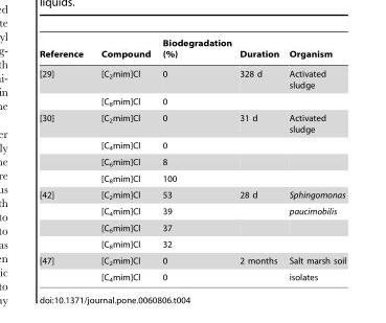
<table><thead><tr><td>Reference</td><td>Compound</td><td>Biodegradation (%)</td><td>Duration</td><td>Organism</td></tr></thead><tbody><tr><td rowspan="2">[29]</td><td>[C<sub>2</sub>mim]Cl</td><td>0</td><td>328 d</td><td>Activated sludge</td></tr><tr><td>[C<sub>8</sub>mim]Cl</td><td>0</td><td></td><td></td></tr><tr><td rowspan="4">[30]</td><td>[C<sub>2</sub>mim]Cl</td><td>0</td><td>31 d</td><td>Activated sludge</td></tr><tr><td>[C<sub>4</sub>mim]Cl</td><td>0</td><td></td><td></td></tr><tr><td>[C<sub>6</sub>mim]Cl</td><td>8</td><td></td><td></td></tr><tr><td>[C<sub>8</sub>mim]Cl</td><td>100</td><td></td><td></td></tr><tr><td rowspan="4">[42]</td><td>[C<sub>2</sub>mim]Cl</td><td>53</td><td>28 d</td><td>Sphingomonas</td></tr><tr><td>[C<sub>4</sub>mim]Cl</td><td>39</td><td></td><td>paucimobilis</td></tr><tr><td>[C<sub>6</sub>mim]Cl</td><td>37</td><td></td><td></td></tr><tr><td>[C<sub>8</sub>mim]Cl</td><td>32</td><td></td><td></td></tr><tr><td rowspan="2">[47]</td><td>[C<sub>2</sub>mim]Cl</td><td>0</td><td>2 months</td><td>Salt marsh soil</td></tr><tr><td>[C<sub>4</sub>mim]Cl</td><td>0</td><td></td><td>isolates</td></tr></tbody></table>